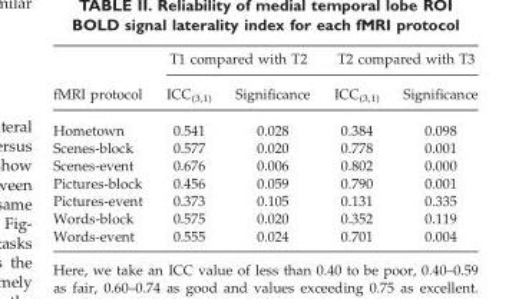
<table><thead><tr><td rowspan="2">fMRI protocol</td><td colspan="2">T1 compared with T2</td><td colspan="2">T2 compared with T3</td></tr><tr><td>ICC<sub>(3,1)</sub></td><td>Significance</td><td>ICC<sub>(3,1)</sub></td><td>Significance</td></tr></thead><tbody><tr><td>Hometown</td><td>0.541</td><td>0.028</td><td>0.384</td><td>0.098</td></tr><tr><td>Scenes-block</td><td>0.577</td><td>0.020</td><td>0.778</td><td>0.001</td></tr><tr><td>Scenes-event</td><td>0.676</td><td>0.006</td><td>0.802</td><td>0.000</td></tr><tr><td>Pictures-block</td><td>0.456</td><td>0.059</td><td>0.790</td><td>0.001</td></tr><tr><td>Pictures-event</td><td>0.373</td><td>0.105</td><td>0.131</td><td>0.335</td></tr><tr><td>Words-block</td><td>0.575</td><td>0.020</td><td>0.352</td><td>0.119</td></tr><tr><td>Words-event</td><td>0.555</td><td>0.024</td><td>0.701</td><td>0.004</td></tr></tbody></table>